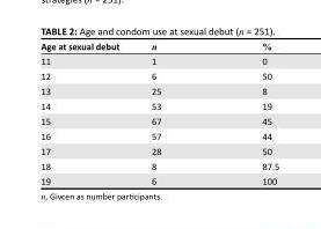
<table><thead><tr><td>Age at sexual debut</td><td>n</td><td>%</td></tr></thead><tbody><tr><td>11</td><td>1</td><td>0</td></tr><tr><td>12</td><td>6</td><td>50</td></tr><tr><td>13</td><td>25</td><td>8</td></tr><tr><td>14</td><td>53</td><td>19</td></tr><tr><td>15</td><td>67</td><td>45</td></tr><tr><td>16</td><td>57</td><td>44</td></tr><tr><td>17</td><td>28</td><td>50</td></tr><tr><td>18</td><td>8</td><td>87.5</td></tr><tr><td>19</td><td>6</td><td>100</td></tr></tbody></table>